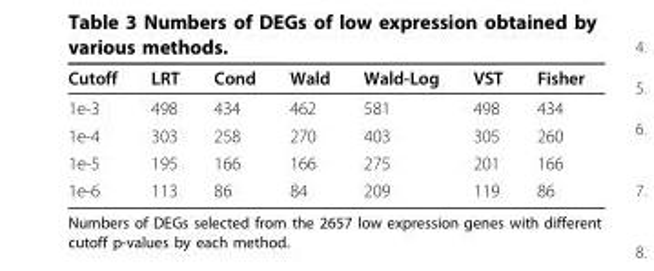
<table><thead><tr><td>Cutoff</td><td>LRT</td><td>Cond</td><td>Wald</td><td>Wald-Log</td><td>VST</td><td>Fisher</td></tr></thead><tbody><tr><td>1e-3</td><td>498</td><td>434</td><td>462</td><td>581</td><td>498</td><td>434</td></tr><tr><td>1e-4</td><td>303</td><td>258</td><td>270</td><td>403</td><td>305</td><td>260</td></tr><tr><td>1e-5</td><td>195</td><td>166</td><td>166</td><td>275</td><td>201</td><td>166</td></tr><tr><td>1e-6</td><td>113</td><td>86</td><td>84</td><td>209</td><td>119</td><td>86</td></tr></tbody></table>